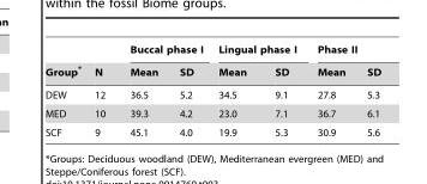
<table><thead><tr><td rowspan="2">Group*</td><td rowspan="2">N</td><td colspan="2">Buccal phase I</td><td colspan="2">Lingual phase I</td><td colspan="2">Phase II</td></tr><tr><td>Mean</td><td>SD</td><td>Mean</td><td>SD</td><td>Mean</td><td>SD</td></tr></thead><tbody><tr><td>DEW</td><td>12</td><td>36.5</td><td>5.2</td><td>34.5</td><td>9.1</td><td>27.8</td><td>5.3</td></tr><tr><td>MED</td><td>10</td><td>39.3</td><td>4.2</td><td>23.0</td><td>7.1</td><td>36.7</td><td>6.1</td></tr><tr><td>SCF</td><td>9</td><td>45.1</td><td>4.0</td><td>19.9</td><td>5.3</td><td>30.9</td><td>5.6</td></tr></tbody></table>